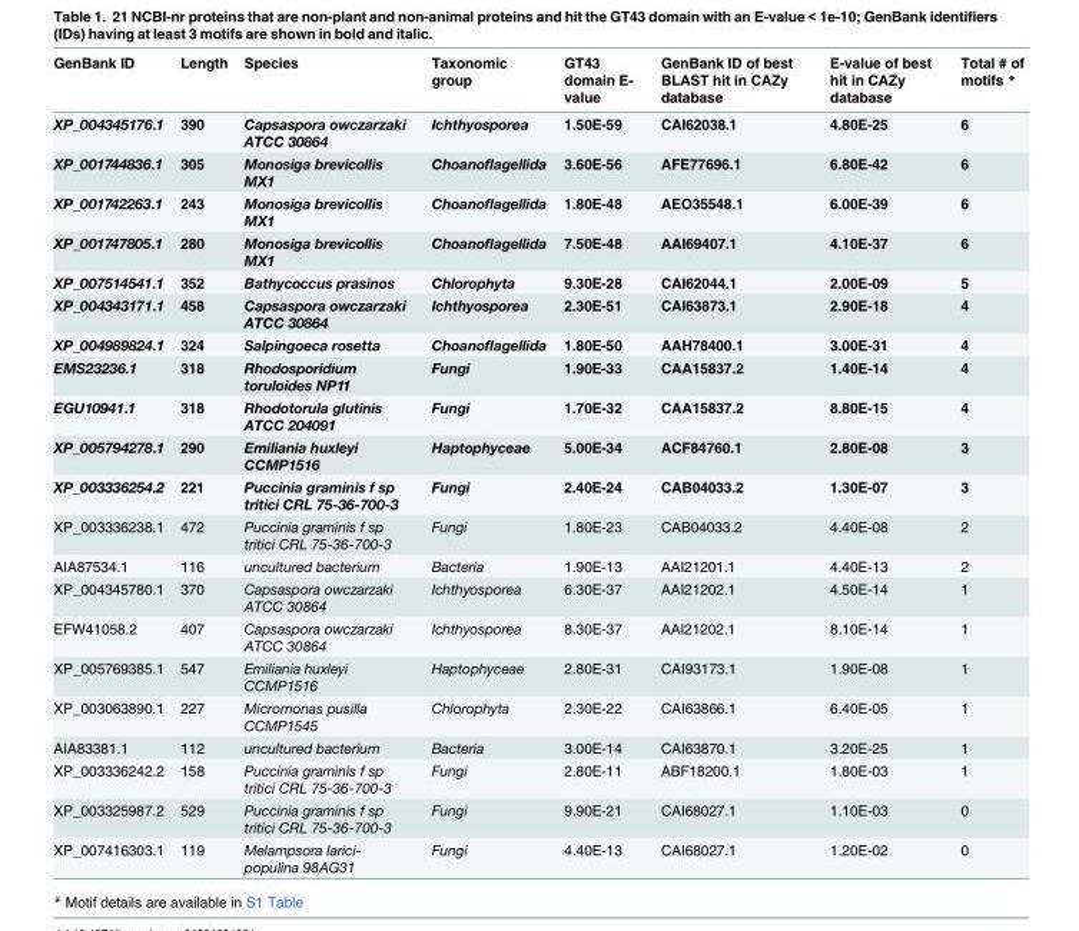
<table><thead><tr><td>GenBank ID</td><td>Length</td><td>Species</td><td>Taxonomic group</td><td>GT43 domain E- value</td><td>GenBank ID of best BLAST hit in CAZy database</td><td>E-value of best hit in CAZy database</td><td>Total # of motifs *</td></tr></thead><tbody><tr><td>XP_004345176.1</td><td>390</td><td>Capsaspora owczarzaki ATCC 30864</td><td>Ichthyosporea</td><td>1.50E-59</td><td>CAI62038.1</td><td>4.80E-25</td><td>6</td></tr><tr><td>XP_001744836.1</td><td>305</td><td>Monosiga brevicollis MX1</td><td>Choanoflagellida</td><td>3.60E-56</td><td>AFE77696.1</td><td>6.80E-42</td><td>6</td></tr><tr><td>XP_001742263.1</td><td>243</td><td>Monosiga brevicollis MX1</td><td>Choanoflagellida</td><td>1.80E-48</td><td>AEO35548.1</td><td>6.00E-39</td><td>6</td></tr><tr><td>XP_001747805.1</td><td>280</td><td>Monosiga brevicollis MX1</td><td>Choanoflagellida</td><td>7.50E-48</td><td>AAI69407.1</td><td>4.10E-37</td><td>6</td></tr><tr><td>XP_007514541.1</td><td>352</td><td>Bathycoccus prasinos</td><td>Chlorophyta</td><td>9.30E-28</td><td>CAI62044.1</td><td>2.00E-09</td><td>5</td></tr><tr><td>XP_004343171.1</td><td>458</td><td>Capsaspora owczarzaki ATCC 30864</td><td>Ichthyosporea</td><td>2.30E-51</td><td>CAI63873.1</td><td>2.90E-18</td><td>4</td></tr><tr><td>XP_004989824.1</td><td>324</td><td>Salpingoeca rosetta</td><td>Choanoflagellida</td><td>1.80E-50</td><td>AAH78400.1</td><td>3.00E-31</td><td>4</td></tr><tr><td>EMS23236.1</td><td>318</td><td>Rhodosporidium toruloides NP11</td><td>Fungi</td><td>1.90E-33</td><td>CAA15837.2</td><td>1.40E-14</td><td>4</td></tr><tr><td>EGU10941.1</td><td>318</td><td>Rhodotorula glutinis ATCC 204091</td><td>Fungi</td><td>1.70E-32</td><td>CAA15837.2</td><td>8.80E-15</td><td>4</td></tr><tr><td>XP_005794278.1</td><td>290</td><td>Emiliania huxleyi CCMP1516</td><td>Haptophyceae</td><td>5.00E-34</td><td>ACF84760.1</td><td>2.80E-08</td><td>3</td></tr><tr><td>XP_003336254.2</td><td>221</td><td>Puccinia graminis f sp tritici CRL 75-36-700-3</td><td>Fungi</td><td>2.40E-24</td><td>CAB04033.2</td><td>1.30E-07</td><td>3</td></tr><tr><td>XP_003336238.1</td><td>472</td><td>Puccinia graminis f sp tritici CRL 75-36-700-3</td><td>Fungi</td><td>1.80E-23</td><td>CAB04033.2</td><td>4.40E-08</td><td>2</td></tr><tr><td>AIA87534.1</td><td>116</td><td>uncultured bacterium</td><td>Bacteria</td><td>1.90E-13</td><td>AAI21201.1</td><td>4.40E-13</td><td>2</td></tr><tr><td>XP_004345780.1</td><td>370</td><td>Capsaspora owczarzaki ATCC 30864</td><td>Ichthyosporea</td><td>6.30E-37</td><td>AAI21202.1</td><td>4.50E-14</td><td>1</td></tr><tr><td>EFW41058.2</td><td>407</td><td>Capsaspora owczarzaki ATCC 30864</td><td>Ichthyosporea</td><td>8.30E-37</td><td>AAI21202.1</td><td>8.10E-14</td><td>1</td></tr><tr><td>XP_005769385.1</td><td>547</td><td>Emiliania huxleyi CCMP1516</td><td>Haptophyceae</td><td>2.80E-31</td><td>CAI93173.1</td><td>1.90E-08</td><td>1</td></tr><tr><td>XP_003063890.1</td><td>227</td><td>Micromonas pusilla CCMP1545</td><td>Chlorophyta</td><td>2.30E-22</td><td>CAI63866.1</td><td>6.40E-05</td><td>1</td></tr><tr><td>AIA83381.1</td><td>112</td><td>uncultured bacterium</td><td>Bacteria</td><td>3.00E-14</td><td>CAI63870.1</td><td>3.20E-25</td><td>1</td></tr><tr><td>XP_003336242.2</td><td>158</td><td>Puccinia graminis f sp tritici CRL 75-36-700-3</td><td>Fungi</td><td>2.80E-11</td><td>ABF18200.1</td><td>1.80E-03</td><td>1</td></tr><tr><td>XP_003325987.2</td><td>529</td><td>Puccinia graminis f sp tritici CRL 75-36-700-3</td><td>Fungi</td><td>9.90E-21</td><td>CAI68027.1</td><td>1.10E-03</td><td>0</td></tr><tr><td>XP_007416303.1</td><td>119</td><td>Melampsora larici- populina 98AG31</td><td>Fungi</td><td>4.40E-13</td><td>CAI68027.1</td><td>1.20E-02</td><td>0</td></tr></tbody></table>